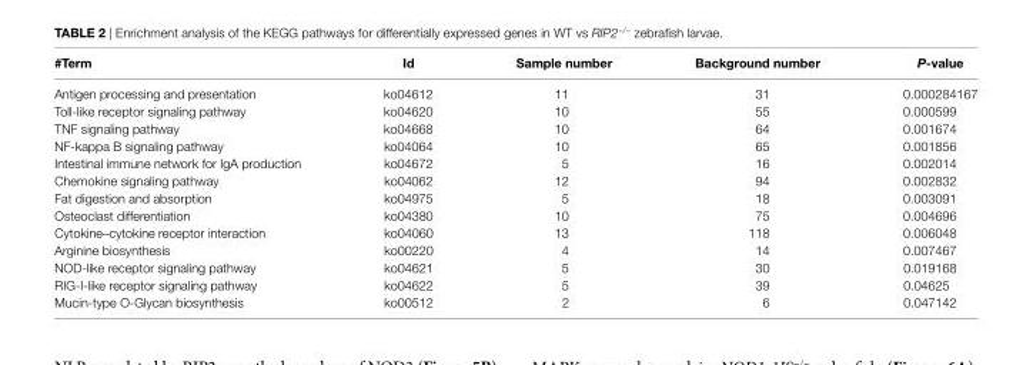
<table><thead><tr><td>#Term</td><td>id</td><td>sample number</td><td>Background number</td><td>P-value</td></tr></thead><tbody><tr><td>Antigen processing and presentation</td><td>ko04612</td><td>11</td><td>31</td><td>0.000284167</td></tr><tr><td>Toll-like receptor signaling pathway</td><td>ko04620</td><td>10</td><td>55</td><td>0.000599</td></tr><tr><td>TNF signaling pathway</td><td>ko04668</td><td>10</td><td>64</td><td>0.001674</td></tr><tr><td>NF-kappa B signaling pathway</td><td>ko04064</td><td>10</td><td>65</td><td>0.001856</td></tr><tr><td>Intestinal immune network for IgA production</td><td>ko04672</td><td>5</td><td>16</td><td>0.002014</td></tr><tr><td>Chemokine signaling pathway</td><td>ko04062</td><td>12</td><td>94</td><td>0.002832</td></tr><tr><td>Fat digestion and absorption</td><td>ko04975</td><td>5</td><td>18</td><td>0.003091</td></tr><tr><td>Osteoclast differentiation</td><td>ko04380</td><td>10</td><td>75</td><td>0.004696</td></tr><tr><td>Cytokine–cytokine receptor interaction</td><td>ko04060</td><td>13</td><td>118</td><td>0.006048</td></tr><tr><td>Arginine biosynthesis</td><td>ko00220</td><td>4</td><td>14</td><td>0.007467</td></tr><tr><td>NOD-like receptor signaling pathway</td><td>ko04621</td><td>5</td><td>30</td><td>0.019168</td></tr><tr><td>RIG-I-like receptor signaling pathway</td><td>ko04622</td><td>5</td><td>39</td><td>0.04625</td></tr><tr><td>Mucin-type O-Glycan biosynthesis</td><td>ko00512</td><td>2</td><td>6</td><td>0.047142</td></tr></tbody></table>